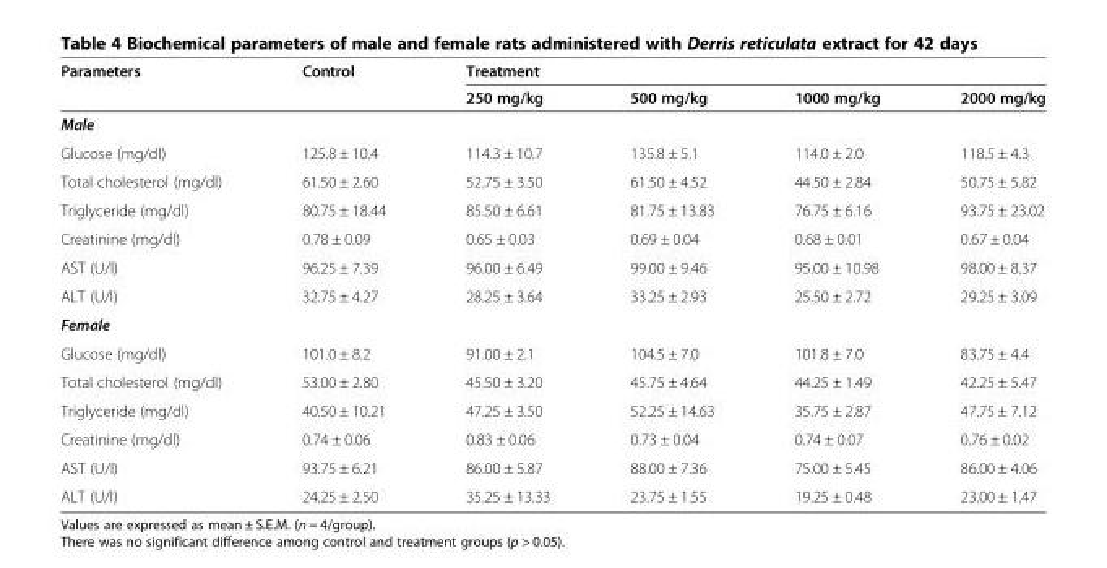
<table><thead><tr><td rowspan="2">Parameters</td><td rowspan="2">Control</td><td colspan="4">Treatment</td></tr><tr><td>250 mg/kg</td><td>500 mg/kg</td><td>1000 mg/kg</td><td>2000 mg/kg</td></tr></thead><tbody><tr><td colspan="6">Male</td></tr><tr><td>Glucose (mg/dl)</td><td>125.8 ± 10.4</td><td>114.3 ± 10.7</td><td>135.8 ± 5.1</td><td>114.0 ± 2.0</td><td>118.5 ± 4.3</td></tr><tr><td>Total cholesterol (mg/dl)</td><td>61.50 ± 2.60</td><td>52.75 ± 3.50</td><td>61.50 ± 4.52</td><td>44.50 ± 2.84</td><td>50.75 ± 5.82</td></tr><tr><td>Triglyceride (mg/dl)</td><td>80.75 ± 18.44</td><td>85.50 ± 6.61</td><td>81.75 ± 13.83</td><td>76.75 ± 6.16</td><td>93.75 ± 23.02</td></tr><tr><td>Creatinine (mg/dl)</td><td>0.78 ± 0.09</td><td>0.65 ± 0.03</td><td>0.69 ± 0.04</td><td>0.68 ± 0.01</td><td>0.67 ± 0.04</td></tr><tr><td>AST (U/l)</td><td>96.25 ± 7.39</td><td>96.00 ± 6.49</td><td>99.00 ± 9.46</td><td>95.00 ± 10.98</td><td>98.00 ± 8.37</td></tr><tr><td>ALT (U/l)</td><td>32.75 ± 4.27</td><td>28.25 ± 3.64</td><td>33.25 ± 2.93</td><td>25.50 ± 2.72</td><td>29.25 ± 3.09</td></tr><tr><td colspan="6">Female</td></tr><tr><td>Glucose (mg/dl)</td><td>101.0 ± 8.2</td><td>91.00 ± 2.1</td><td>104.5 ± 7.0</td><td>101.8 ± 7.0</td><td>83.75 ± 4.4</td></tr><tr><td>Total cholesterol (mg/dl)</td><td>53.00 ± 2.80</td><td>45.50 ± 3.20</td><td>45.75 ± 4.64</td><td>44.25 ± 1.49</td><td>42.25 ± 5.47</td></tr><tr><td>Triglyceride (mg/dl)</td><td>40.50 ± 10.21</td><td>47.25 ± 3.50</td><td>52.25 ± 14.63</td><td>35.75 ± 2.87</td><td>47.75 ± 7.12</td></tr><tr><td>Creatinine (mg/dl)</td><td>0.74 ± 0.06</td><td>0.83 ± 0.06</td><td>0.73 ± 0.04</td><td>0.74 ± 0.07</td><td>0.76 ± 0.02</td></tr><tr><td>AST (U/l)</td><td>93.75 ± 6.21</td><td>86.00 ± 5.87</td><td>88.00 ± 7.36</td><td>75.00 ± 5.45</td><td>86.00 ± 4.06</td></tr><tr><td>ALT (U/l)</td><td>24.25 ± 2.50</td><td>35.25 ± 13.33</td><td>23.75 ± 1.55</td><td>19.25 ± 0.48</td><td>23.00 ± 1.47</td></tr></tbody></table>